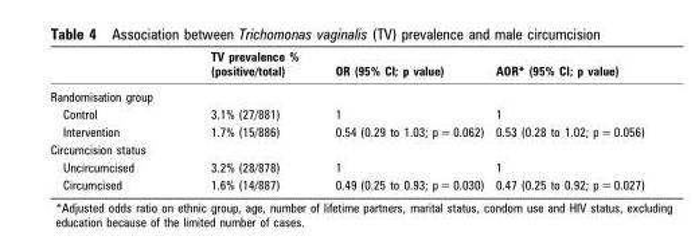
<table><thead><tr><td></td><td>TV prevalence % (positive/total)</td><td>OR (95% CI; p value)</td><td>AOR* (95% CI; p value)</td></tr></thead><tbody><tr><td colspan="4">Randomisation group</td></tr><tr><td>Control</td><td>3.1% (27/881)</td><td>1</td><td>1</td></tr><tr><td>Intervention</td><td>1.7% (15/886)</td><td>0.54 (0.29 to 1.03; p = 0.062)</td><td>0.53 (0.28 to 1.02; p = 0.056)</td></tr><tr><td colspan="4">Circumcision status</td></tr><tr><td>Uncircumcised</td><td>3.2% (28/878)</td><td>1</td><td>1</td></tr><tr><td>Circumcised</td><td>1.6% (14/887)</td><td>0.49 (0.25 to 0.93; p = 0.030)</td><td>0.47 (0.25 to 0.92; p = 0.027)</td></tr></tbody></table>